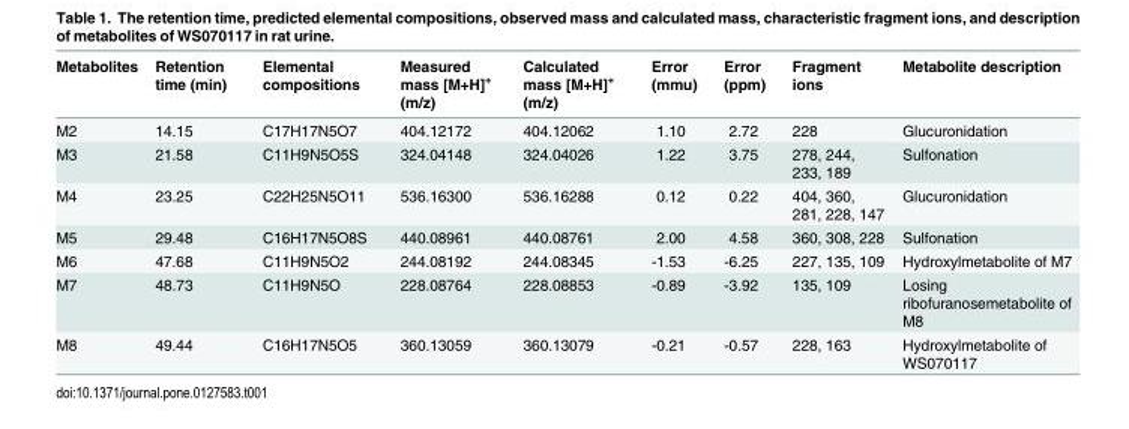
<table><thead><tr><td>Metabolites</td><td>Retention time (min)</td><td>Elemental compositions</td><td>Measured mass [M+H]<sup>+</sup> (m/z)</td><td>Calculated mass [M+H]<sup>+</sup> (m/z)</td><td>Error (mmu)</td><td>Error (ppm)</td><td>Fragment ions</td><td>Metabolite description</td></tr></thead><tbody><tr><td>M2</td><td>14.15</td><td>C17H17N5O7</td><td>404.12172</td><td>404.12062</td><td>1.10</td><td>2.72</td><td>228</td><td>Glucuronidation</td></tr><tr><td>M3</td><td>21.58</td><td>C11H9N5O5S</td><td>324.04148</td><td>324.04026</td><td>1.22</td><td>3.75</td><td>278, 244, 233, 189</td><td>Sulfonation</td></tr><tr><td>M4</td><td>23.25</td><td>C22H25N5O11</td><td>536.16300</td><td>536.16288</td><td>0.12</td><td>0.22</td><td>404, 360, 281, 228, 147</td><td>Glucuronidation</td></tr><tr><td>M5</td><td>29.48</td><td>C16H17N5O8S</td><td>440.08961</td><td>440.08761</td><td>2.00</td><td>4.58</td><td>360, 308, 228</td><td>Sulfonation</td></tr><tr><td>M6</td><td>47.68</td><td>C11H9N5O2</td><td>244.08192</td><td>244.08345</td><td>-1.53</td><td>-6.25</td><td>227, 135, 109</td><td>Hydroxylmetabolite of M7</td></tr><tr><td>M7</td><td>48.73</td><td>C11H9N5O</td><td>228.08764</td><td>228.08853</td><td>-0.89</td><td>-3.92</td><td>135, 109</td><td>Losing ribofuranosemetabolite of M8</td></tr><tr><td>M8</td><td>49.44</td><td>C16H17N5O5</td><td>360.13059</td><td>360.13079</td><td>-0.21</td><td>-0.57</td><td>228, 163</td><td>Hydroxylmetabolite of WS070117</td></tr></tbody></table>